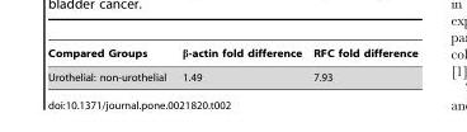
<table><thead><tr><td>Compared Groups</td><td>β-actin fold difference</td><td>RFC fold difference</td></tr></thead><tbody><tr><td>Urothelial: non-urothelial</td><td>1.49</td><td>7.93</td></tr></tbody></table>